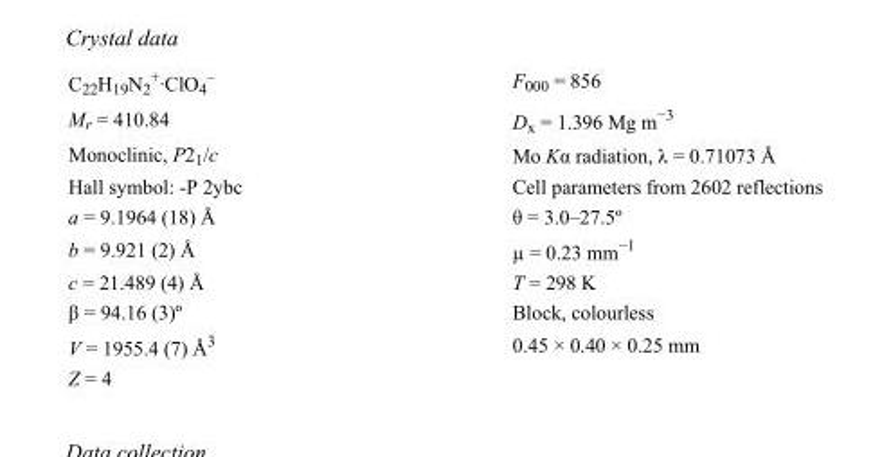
<table><tbody><tr><td>C<sub>22</sub>H<sub>19</sub>N<sub>2</sub> <sup>+</sup>·ClO<sub>4</sub> <sup>–</sup></td><td>F000 = 856</td></tr><tr><td>M<sub>r</sub> = 410.84</td><td>D<sub>x</sub> = 1.396 Mg m<sup>−3</sup></td></tr><tr><td>Monoclinic, P2<sub>1</sub>/c</td><td>Mo Kα radiation, λ = 0.71073 Å</td></tr><tr><td>Hall symbol: -P 2ybc</td><td>Cell parameters from 2602 reflections</td></tr><tr><td>a = 9.1964 (18) Å</td><td>θ = 3.0–27.5º</td></tr><tr><td>b = 9.921 (2) Å</td><td>µ = 0.23 mm<sup>−1</sup></td></tr><tr><td>c = 21.489 (4) Å</td><td>T = 298 K</td></tr><tr><td>β = 94.16 (3)º</td><td>Block, colourless</td></tr><tr><td>V = 1955.4 (7) Å<sup>3</sup></td><td>0.45 × 0.40 × 0.25 mm</td></tr><tr><td>Z = 4</td><td></td></tr></tbody></table>